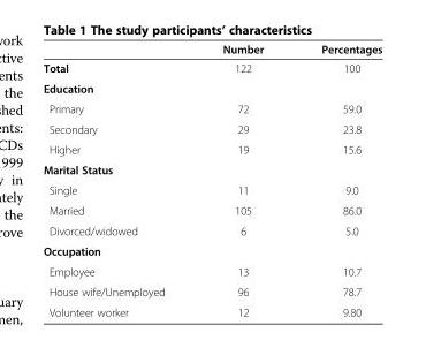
<table><thead><tr><td></td><td>Number</td><td>Percentages</td></tr></thead><tbody><tr><td>Total</td><td>122</td><td>100</td></tr><tr><td colspan="3">Education</td></tr><tr><td>Primary</td><td>72</td><td>59.0</td></tr><tr><td>Secondary</td><td>29</td><td>23.8</td></tr><tr><td>Higher</td><td>19</td><td>15.6</td></tr><tr><td colspan="3">Marital Status</td></tr><tr><td>Single</td><td>11</td><td>9.0</td></tr><tr><td>Married</td><td>105</td><td>86.0</td></tr><tr><td>Divorced/widowed</td><td>6</td><td>5.0</td></tr><tr><td colspan="3">Occupation</td></tr><tr><td>Employee</td><td>13</td><td>10.7</td></tr><tr><td>House wife/Unemployed</td><td>96</td><td>78.7</td></tr><tr><td>Volunteer worker</td><td>12</td><td>9.80</td></tr></tbody></table>